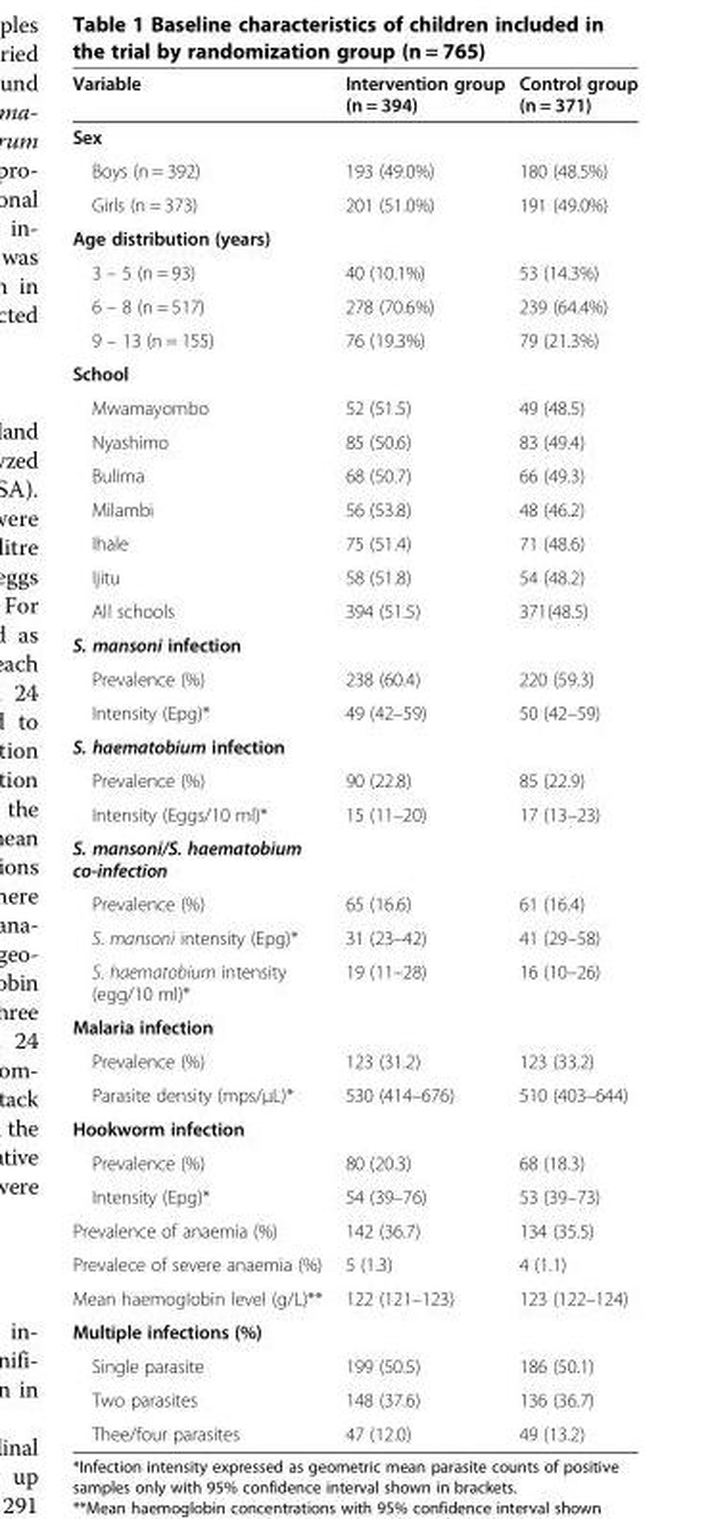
<table><thead><tr><td>Variable</td><td>Intervention group (n = 394)</td><td>Control group (n = 371)</td></tr></thead><tbody><tr><td colspan="3">Sex</td></tr><tr><td>Boys (n = 392)</td><td>193 (49.0%)</td><td>180 (48.5%)</td></tr><tr><td>Girls (n = 373)</td><td>201 (51.0%)</td><td>191 (49.0%)</td></tr><tr><td colspan="3">Age distribution (years)</td></tr><tr><td>3 – 5 (n = 93)</td><td>40 (10.1%)</td><td>53 (14.3%)</td></tr><tr><td>6 – 8 (n = 517)</td><td>278 (70.6%)</td><td>239 (64.4%)</td></tr><tr><td>9 – 13 (n = 155)</td><td>76 (19.3%)</td><td>79 (21.3%)</td></tr><tr><td colspan="3">School</td></tr><tr><td>Mwamayombo</td><td>52 (51.5)</td><td>49 (48.5)</td></tr><tr><td>Nyashimo</td><td>85 (50.6)</td><td>83 (49.4)</td></tr><tr><td>Bulima</td><td>68 (50.7)</td><td>66 (49.3)</td></tr><tr><td>Milambi</td><td>56 (53.8)</td><td>48 (46.2)</td></tr><tr><td>Ihale</td><td>75 (51.4)</td><td>71 (48.6)</td></tr><tr><td>Ijitu</td><td>58 (51.8)</td><td>54 (48.2)</td></tr><tr><td>All schools</td><td>394 (51.5)</td><td>371(48.5)</td></tr><tr><td colspan="3">S. mansoni infection</td></tr><tr><td>Prevalence (%)</td><td>238 (60.4)</td><td>220 (59.3)</td></tr><tr><td>Intensity (Epg)*</td><td>49 (42–59)</td><td>50 (42–59)</td></tr><tr><td colspan="3">S. haematobium infection</td></tr><tr><td>Prevalence (%)</td><td>90 (22.8)</td><td>85 (22.9)</td></tr><tr><td>Intensity (Eggs/10 ml)*</td><td>15 (11–20)</td><td>17 (13–23)</td></tr><tr><td colspan="3">S. mansoni/S. haematobium co-infection</td></tr><tr><td>Prevalence (%)</td><td>65 (16.6)</td><td>61 (16.4)</td></tr><tr><td>S. mansoni intensity (Epg)*</td><td>31 (23–42)</td><td>41 (29–58)</td></tr><tr><td>S. haematobium intensity (egg/10 ml)*</td><td>19 (11–28)</td><td>16 (10–26)</td></tr><tr><td colspan="3">Malaria infection</td></tr><tr><td>Prevalence (%)</td><td>123 (31.2)</td><td>123 (33.2)</td></tr><tr><td>Parasite density (mps/μL)*</td><td>530 (414–676)</td><td>510 (403–644)</td></tr><tr><td colspan="3">Hookworm infection</td></tr><tr><td>Prevalence (%)</td><td>80 (20.3)</td><td>68 (18.3)</td></tr><tr><td>Intensity (Epg)*</td><td>54 (39–76)</td><td>53 (39–73)</td></tr><tr><td>Prevalence of anaemia (%)</td><td>142 (36.7)</td><td>134 (35.5)</td></tr><tr><td>Prevalece of severe anaemia (%)</td><td>5 (1.3)</td><td>4 (1.1)</td></tr><tr><td>Mean haemoglobin level (g/L)**</td><td>122 (121–123)</td><td>123 (122–124)</td></tr><tr><td colspan="3">Multiple infections (%)</td></tr><tr><td>Single parasite</td><td>199 (50.5)</td><td>186 (50.1)</td></tr><tr><td>Two parasites</td><td>148 (37.6)</td><td>136 (36.7)</td></tr><tr><td>Thee/four parasites</td><td>47 (12.0)</td><td>49 (13.2)</td></tr></tbody></table>